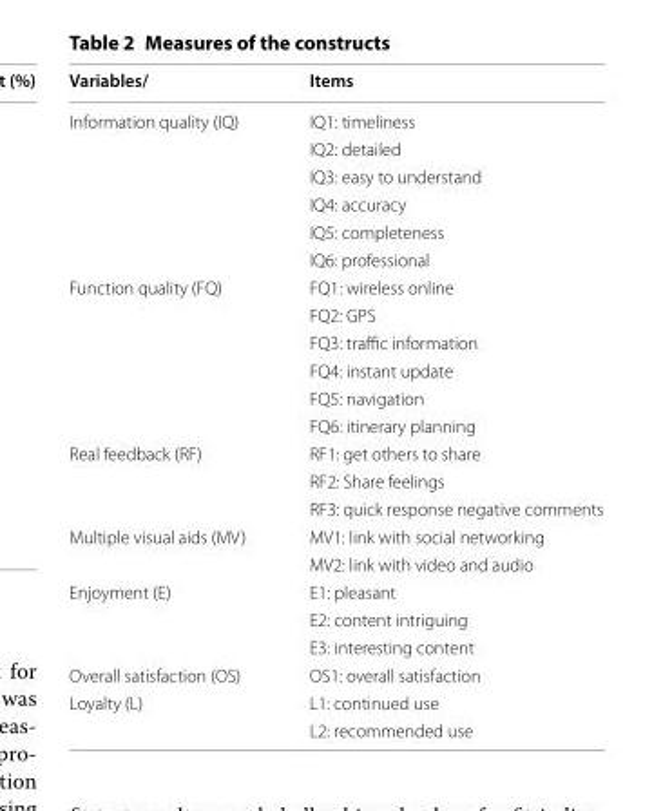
<table><thead><tr><td>Variables/</td><td>Items</td></tr></thead><tbody><tr><td rowspan="6">Information quality (IQ)</td><td>IQ1: timeliness</td></tr><tr><td>IQ2: detailed</td></tr><tr><td>IQ3: easy to understand</td></tr><tr><td>IQ4: accuracy</td></tr><tr><td>IQ5: completeness</td></tr><tr><td>IQ6: professional</td></tr><tr><td rowspan="6">Function quality (FQ)</td><td>FQ1: wireless online</td></tr><tr><td>FQ2: GPS</td></tr><tr><td>FQ3: traffic information</td></tr><tr><td>FQ4: instant update</td></tr><tr><td>FQ5: navigation</td></tr><tr><td>FQ6: itinerary planning</td></tr><tr><td rowspan="3">Real feedback (RF)</td><td>RF1: get others to share</td></tr><tr><td>RF2: Share feelings</td></tr><tr><td>RF3: quick response negative comments</td></tr><tr><td rowspan="2">Multiple visual aids (MV)</td><td>MV1: link with social networking</td></tr><tr><td>MV2: link with video and audio</td></tr><tr><td rowspan="3">Enjoyment (E)</td><td>E1: pleasant</td></tr><tr><td>E2: content intriguing</td></tr><tr><td>E3: interesting content</td></tr><tr><td>Overall satisfaction (OS)</td><td>OS1: overall satisfaction</td></tr><tr><td rowspan="2">Loyalty (L)</td><td>L1: continued use</td></tr><tr><td>L2: recommended use</td></tr></tbody></table>